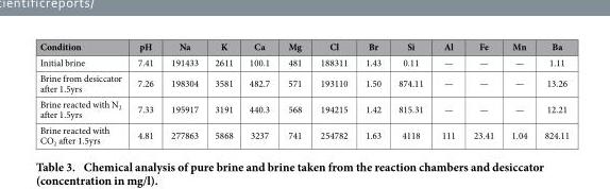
<table><thead><tr><td>Condition</td><td>pH</td><td>Na</td><td>K</td><td>Ca</td><td>Mg</td><td>Cl</td><td>Br</td><td>Si</td><td>Al</td><td>Fe</td><td>Mn</td><td>Ba</td></tr></thead><tbody><tr><td>Initial brine</td><td>7.41</td><td>191433</td><td>2611</td><td>100.1</td><td>481</td><td>188311</td><td>1.43</td><td>0.11</td><td>—</td><td>—</td><td>—</td><td>1.11</td></tr><tr><td>Brine from desiccator after 1.5yrs</td><td>7.26</td><td>198304</td><td>3581</td><td>482.7</td><td>571</td><td>193110</td><td>1.50</td><td>874.11</td><td>—</td><td>—</td><td>—</td><td>13.26</td></tr><tr><td>Brine reacted with N<sub>2</sub> after 1.5yrs</td><td>7.33</td><td>195917</td><td>3191</td><td>440.3</td><td>568</td><td>194215</td><td>1.42</td><td>815.31</td><td>—</td><td>—</td><td>—</td><td>12.21</td></tr><tr><td>Brine reacted with CO<sub>2</sub> after 1.5yrs</td><td>4.81</td><td>277863</td><td>5868</td><td>3237</td><td>741</td><td>254782</td><td>1.63</td><td>4118</td><td>111</td><td>23.41</td><td>1.04</td><td>824.11</td></tr></tbody></table>